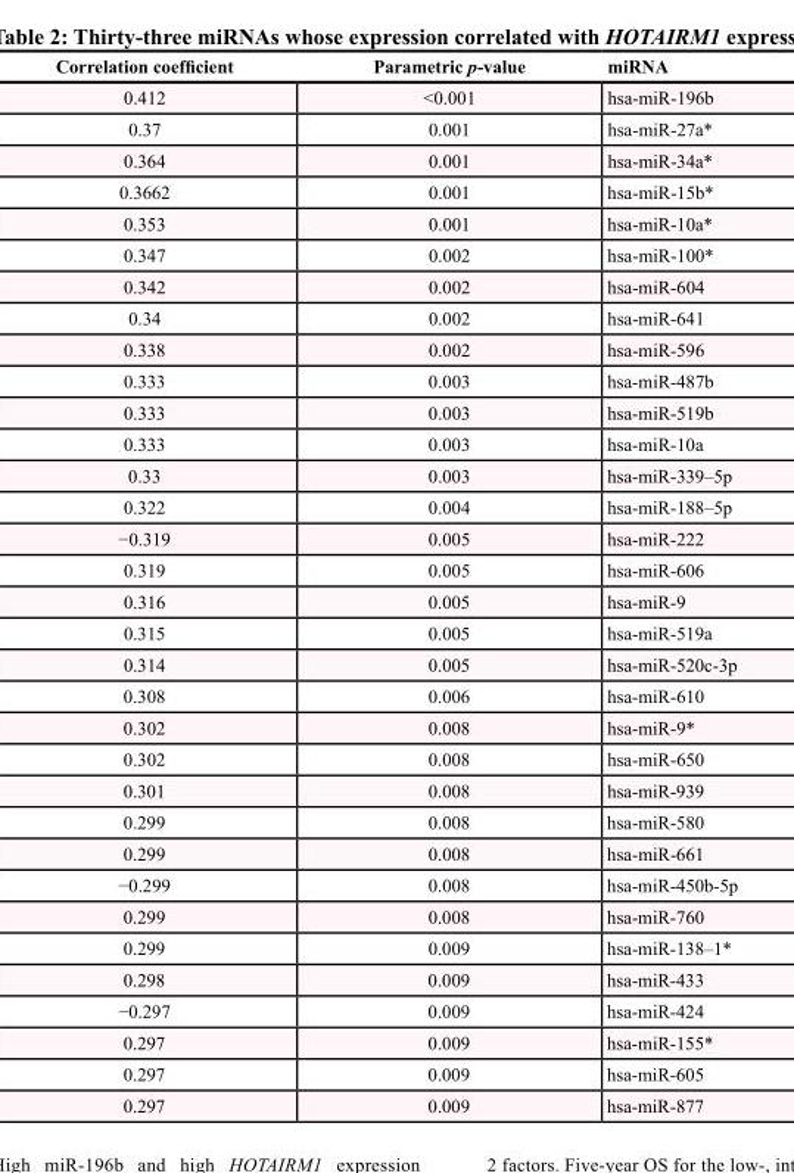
<table><thead><tr><td>Correlation coefficient</td><td>Parametric p-value</td><td>miRNA</td></tr></thead><tbody><tr><td>0.412</td><td>&lt;0.001</td><td>hsa-miR-196b</td></tr><tr><td>0.37</td><td>0.001</td><td>hsa-miR-27a*</td></tr><tr><td>0.364</td><td>0.001</td><td>hsa-miR-34a*</td></tr><tr><td>0.3662</td><td>0.001</td><td>hsa-miR-15b*</td></tr><tr><td>0.353</td><td>0.001</td><td>hsa-miR-10a*</td></tr><tr><td>0.347</td><td>0.002</td><td>hsa-miR-100*</td></tr><tr><td>0.342</td><td>0.002</td><td>hsa-miR-604</td></tr><tr><td>0.34</td><td>0.002</td><td>hsa-miR-641</td></tr><tr><td>0.338</td><td>0.002</td><td>hsa-miR-596</td></tr><tr><td>0.333</td><td>0.003</td><td>hsa-miR-487b</td></tr><tr><td>0.333</td><td>0.003</td><td>hsa-miR-519b</td></tr><tr><td>0.333</td><td>0.003</td><td>hsa-miR-10a</td></tr><tr><td>0.33</td><td>0.003</td><td>hsa-miR-339–5p</td></tr><tr><td>0.322</td><td>0.004</td><td>hsa-miR-188–5p</td></tr><tr><td>−0.319</td><td>0.005</td><td>hsa-miR-222</td></tr><tr><td>0.319</td><td>0.005</td><td>hsa-miR-606</td></tr><tr><td>0.316</td><td>0.005</td><td>hsa-miR-9</td></tr><tr><td>0.315</td><td>0.005</td><td>hsa-miR-519a</td></tr><tr><td>0.314</td><td>0.005</td><td>hsa-miR-520c-3p</td></tr><tr><td>0.308</td><td>0.006</td><td>hsa-miR-610</td></tr><tr><td>0.302</td><td>0.008</td><td>hsa-miR-9*</td></tr><tr><td>0.302</td><td>0.008</td><td>hsa-miR-650</td></tr><tr><td>0.301</td><td>0.008</td><td>hsa-miR-939</td></tr><tr><td>0.299</td><td>0.008</td><td>hsa-miR-580</td></tr><tr><td>0.299</td><td>0.008</td><td>hsa-miR-661</td></tr><tr><td>−0.299</td><td>0.008</td><td>hsa-miR-450b-5p</td></tr><tr><td>0.299</td><td>0.008</td><td>hsa-miR-760</td></tr><tr><td>0.299</td><td>0.009</td><td>hsa-miR-138–1*</td></tr><tr><td>0.298</td><td>0.009</td><td>hsa-miR-433</td></tr><tr><td>−0.297</td><td>0.009</td><td>hsa-miR-424</td></tr><tr><td>0.297</td><td>0.009</td><td>hsa-miR-155*</td></tr><tr><td>0.297</td><td>0.009</td><td>hsa-miR-605</td></tr><tr><td>0.297</td><td>0.009</td><td>hsa-miR-877</td></tr></tbody></table>